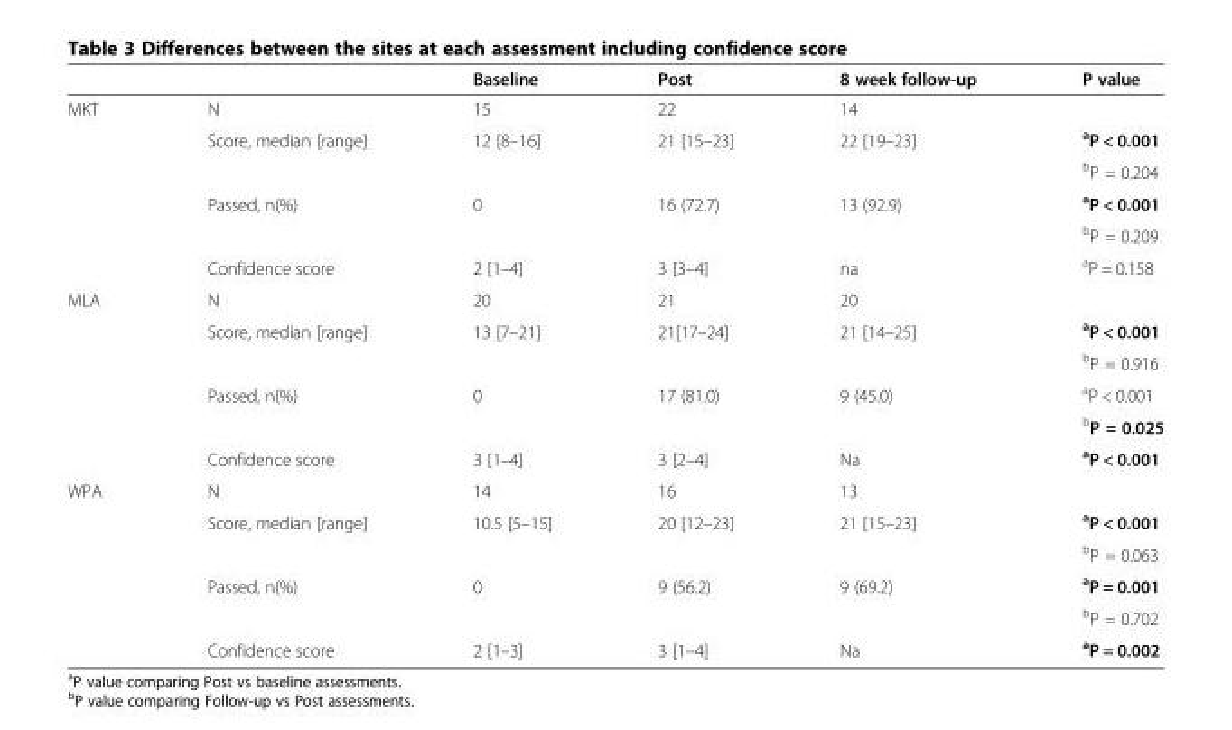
<table><thead><tr><td></td><td></td><td>Baseline</td><td>Post</td><td>8 week follow-up</td><td>P value</td></tr></thead><tbody><tr><td rowspan="6">MKT</td><td>N</td><td>15</td><td>22</td><td>14</td><td></td></tr><tr><td rowspan="2">Score, median [range]</td><td rowspan="2">12 [8–16]</td><td rowspan="2">21 [15–23]</td><td rowspan="2">22 [19–23]</td><td><sup>a</sup>P &lt; 0.001</td></tr><tr><td><sup>b</sup>P = 0.204</td></tr><tr><td rowspan="2">Passed, n(%)</td><td rowspan="2">0</td><td rowspan="2">16 (72.7)</td><td rowspan="2">13 (92.9)</td><td><sup>a</sup>P &lt; 0.001</td></tr><tr><td><sup>b</sup>P = 0.209</td></tr><tr><td>Confidence score</td><td>2 [1–4]</td><td>3 [3–4]</td><td>na</td><td><sup>a</sup>P = 0.158</td></tr><tr><td rowspan="6">MLA</td><td>N</td><td>20</td><td>21</td><td>20</td><td></td></tr><tr><td rowspan="2">Score, median [range]</td><td rowspan="2">13 [7–21]</td><td rowspan="2">21[17–24]</td><td rowspan="2">21 [14–25]</td><td><sup>a</sup>P &lt; 0.001</td></tr><tr><td><sup>b</sup>P = 0.916</td></tr><tr><td rowspan="2">Passed, n(%)</td><td rowspan="2">0</td><td rowspan="2">17 (81.0)</td><td rowspan="2">9 (45.0)</td><td><sup>a</sup>P &lt; 0.001</td></tr><tr><td><sup>b</sup>P = 0.025</td></tr><tr><td>Confidence score</td><td>3 [1–4]</td><td>3 [2–4]</td><td>Na</td><td><sup>a</sup>P &lt; 0.001</td></tr><tr><td rowspan="6">WPA</td><td>N</td><td>14</td><td>16</td><td>13</td><td></td></tr><tr><td rowspan="2">Score, median [range]</td><td rowspan="2">10.5 [5–15]</td><td rowspan="2">20 [12–23]</td><td rowspan="2">21 [15–23]</td><td><sup>a</sup>P &lt; 0.001</td></tr><tr><td><sup>b</sup>P = 0.063</td></tr><tr><td rowspan="2">Passed, n(%)</td><td rowspan="2">0</td><td rowspan="2">9 (56.2)</td><td rowspan="2">9 (69.2)</td><td><sup>a</sup>P = 0.001</td></tr><tr><td><sup>b</sup>P = 0.702</td></tr><tr><td>Confidence score</td><td>2 [1–3]</td><td>3 [1–4]</td><td>Na</td><td><sup>a</sup>P = 0.002</td></tr></tbody></table>